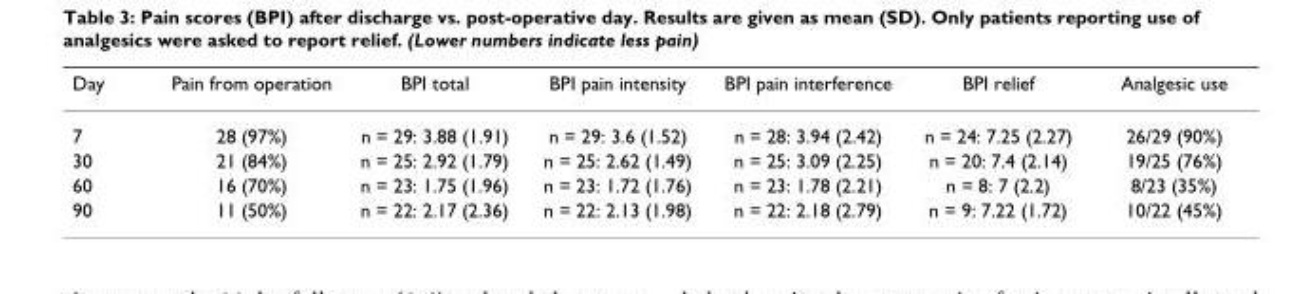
<table><thead><tr><td>Day</td><td>Pain from operation</td><td>BPI total</td><td>BPI pain intensity</td><td>BPI pain interference</td><td>BPI relief</td><td>Analgesic use</td></tr></thead><tbody><tr><td>7</td><td>28 (97%)</td><td>n = 29: 3.88 (1.91)</td><td>n = 29: 3.6 (1.52)</td><td>n = 28: 3.94 (2.42)</td><td>n = 24: 7.25 (2.27)</td><td>26/29 (90%)</td></tr><tr><td>30</td><td>21 (84%)</td><td>n = 25: 2.92 (1.79)</td><td>n = 25: 2.62 (1.49)</td><td>n = 25: 3.09 (2.25)</td><td>n = 20: 7.4 (2.14)</td><td>19/25 (76%)</td></tr><tr><td>60</td><td>16 (70%)</td><td>n = 23: 1.75 (1.96)</td><td>n = 23: 1.72 (1.76)</td><td>n = 23: 1.78 (2.21)</td><td>n = 8: 7 (2.2)</td><td>8/23 (35%)</td></tr><tr><td>90</td><td>11 (50%)</td><td>n = 22: 2.17 (2.36)</td><td>n = 22: 2.13 (1.98)</td><td>n = 22: 2.18 (2.79)</td><td>n = 9: 7.22 (1.72)</td><td>10/22 (45%)</td></tr></tbody></table>